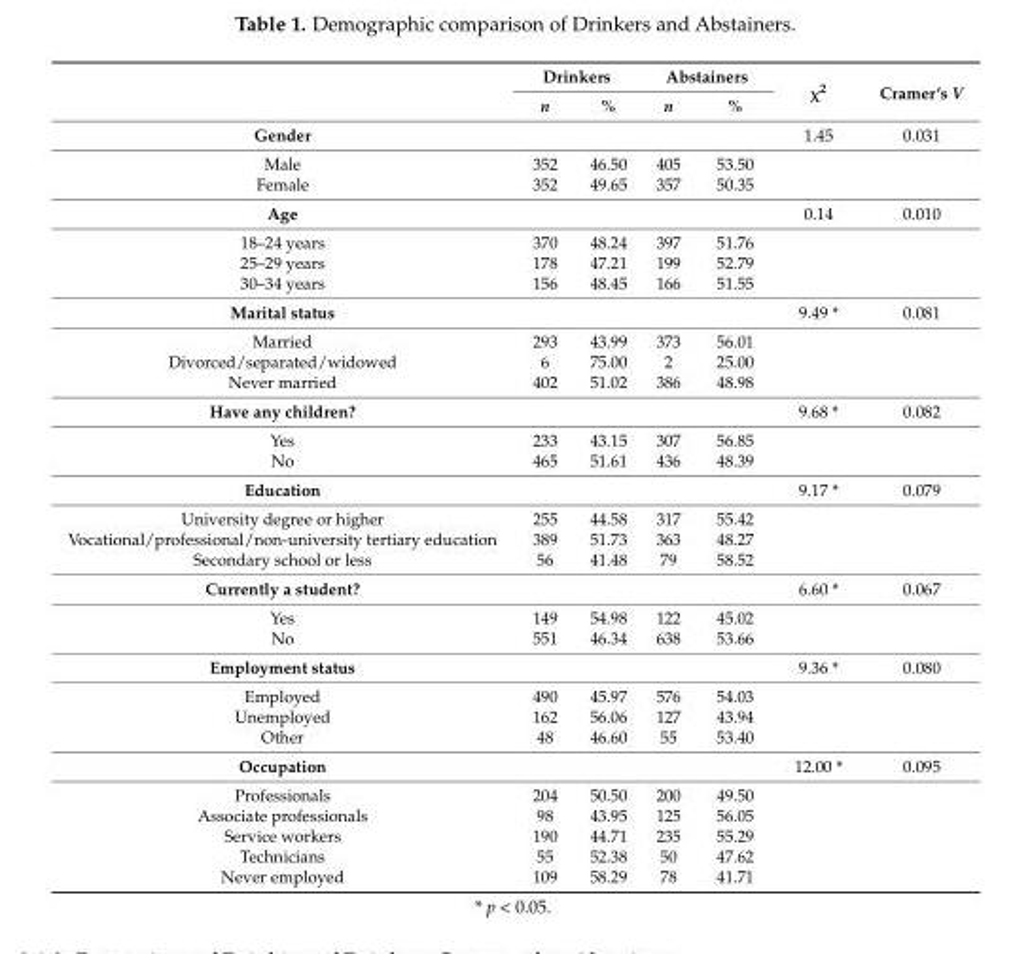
<table><thead><tr><td rowspan="2"></td><td colspan="2">Drinkers</td><td colspan="2">Abstainers</td><td rowspan="2">χ<sup>2</sup></td><td rowspan="2">Cramer’s V</td></tr><tr><td>n</td><td>%</td><td>n</td><td>%</td></tr></thead><tbody><tr><td>Gender</td><td></td><td></td><td></td><td></td><td>1.45</td><td>0.031</td></tr><tr><td>Male</td><td>352</td><td>46.50</td><td>405</td><td>53.50</td><td></td><td></td></tr><tr><td>Female</td><td>352</td><td>49.65</td><td>357</td><td>50.35</td><td></td><td></td></tr><tr><td>Age</td><td></td><td></td><td></td><td></td><td>0.14</td><td>0.010</td></tr><tr><td>18–24 years</td><td>370</td><td>48.24</td><td>397</td><td>51.76</td><td></td><td></td></tr><tr><td>25–29 years</td><td>178</td><td>47.21</td><td>199</td><td>52.79</td><td></td><td></td></tr><tr><td>30–34 years</td><td>156</td><td>48.45</td><td>166</td><td>51.55</td><td></td><td></td></tr><tr><td>Marital status</td><td></td><td></td><td></td><td></td><td>9.49 *</td><td>0.081</td></tr><tr><td>Married</td><td>293</td><td>43.99</td><td>373</td><td>56.01</td><td></td><td></td></tr><tr><td>Divorced/separated/widowed</td><td>6</td><td>75.00</td><td>2</td><td>25.00</td><td></td><td></td></tr><tr><td>Never married</td><td>402</td><td>51.02</td><td>386</td><td>48.98</td><td></td><td></td></tr><tr><td>Have any children?</td><td></td><td></td><td></td><td></td><td>9.68 *</td><td>0.082</td></tr><tr><td>Yes</td><td>233</td><td>43.15</td><td>307</td><td>56.85</td><td></td><td></td></tr><tr><td>No</td><td>465</td><td>51.61</td><td>436</td><td>48.39</td><td></td><td></td></tr><tr><td>Education</td><td></td><td></td><td></td><td></td><td>9.17 *</td><td>0.079</td></tr><tr><td>University degree or higher</td><td>255</td><td>44.58</td><td>317</td><td>55.42</td><td></td><td></td></tr><tr><td>Vocational/professional/non-university tertiary education</td><td>389</td><td>51.73</td><td>363</td><td>48.27</td><td></td><td></td></tr><tr><td>Secondary school or less</td><td>56</td><td>41.48</td><td>79</td><td>58.52</td><td></td><td></td></tr><tr><td>Currently a student?</td><td></td><td></td><td></td><td></td><td>6.60 *</td><td>0.067</td></tr><tr><td>Yes</td><td>149</td><td>54.98</td><td>122</td><td>45.02</td><td></td><td></td></tr><tr><td>No</td><td>551</td><td>46.34</td><td>638</td><td>53.66</td><td></td><td></td></tr><tr><td>Employment status</td><td></td><td></td><td></td><td></td><td>9.36 *</td><td>0.080</td></tr><tr><td>Employed</td><td>490</td><td>45.97</td><td>576</td><td>54.03</td><td></td><td></td></tr><tr><td>Unemployed</td><td>162</td><td>56.06</td><td>127</td><td>43.94</td><td></td><td></td></tr><tr><td>Other</td><td>48</td><td>46.60</td><td>55</td><td>53.40</td><td></td><td></td></tr><tr><td>Occupation</td><td></td><td></td><td></td><td></td><td>12.00 *</td><td>0.095</td></tr><tr><td>Professionals</td><td>204</td><td>50.50</td><td>200</td><td>49.50</td><td></td><td></td></tr><tr><td>Associate professionals</td><td>98</td><td>43.95</td><td>125</td><td>56.05</td><td></td><td></td></tr><tr><td>Service workers</td><td>190</td><td>44.71</td><td>235</td><td>55.29</td><td></td><td></td></tr><tr><td>Technicians</td><td>55</td><td>52.38</td><td>50</td><td>47.62</td><td></td><td></td></tr><tr><td>Never employed</td><td>109</td><td>58.29</td><td>78</td><td>41.71</td><td></td><td></td></tr></tbody></table>